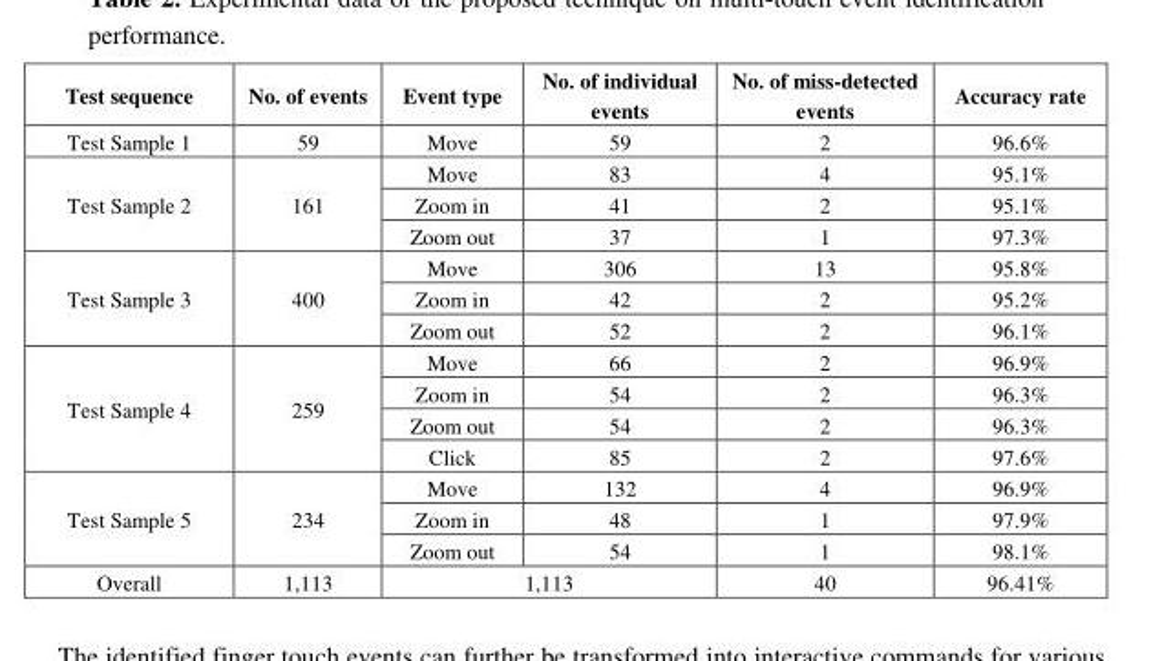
<table><thead><tr><td>Test sequence</td><td>No. of events</td><td>Event type</td><td>No. of individual events</td><td>No. of miss-detected events</td><td>Accuracy rate</td></tr></thead><tbody><tr><td>Test Sample 1</td><td>59</td><td>Move</td><td>59</td><td>2</td><td>96.6%</td></tr><tr><td rowspan="3">Test Sample 2</td><td rowspan="3">161</td><td>Move</td><td>83</td><td>4</td><td>95.1%</td></tr><tr><td>Zoom in</td><td>41</td><td>2</td><td>95.1%</td></tr><tr><td>Zoom out</td><td>37</td><td>1</td><td>97.3%</td></tr><tr><td rowspan="3">Test Sample 3</td><td rowspan="3">400</td><td>Move</td><td>306</td><td>13</td><td>95.8%</td></tr><tr><td>Zoom in</td><td>42</td><td>2</td><td>95.2%</td></tr><tr><td>Zoom out</td><td>52</td><td>2</td><td>96.1%</td></tr><tr><td rowspan="4">Test Sample 4</td><td rowspan="4">259</td><td>Move</td><td>66</td><td>2</td><td>96.9%</td></tr><tr><td>Zoom in</td><td>54</td><td>2</td><td>96.3%</td></tr><tr><td>Zoom out</td><td>54</td><td>2</td><td>96.3%</td></tr><tr><td>Click</td><td>85</td><td>2</td><td>97.6%</td></tr><tr><td rowspan="3">Test Sample 5</td><td rowspan="3">234</td><td>Move</td><td>132</td><td>4</td><td>96.9%</td></tr><tr><td>Zoom in</td><td>48</td><td>1</td><td>97.9%</td></tr><tr><td>Zoom out</td><td>54</td><td>1</td><td>98.1%</td></tr><tr><td>Overall</td><td>1,113</td><td colspan="2">1,113</td><td>40</td><td>96.41%</td></tr></tbody></table>